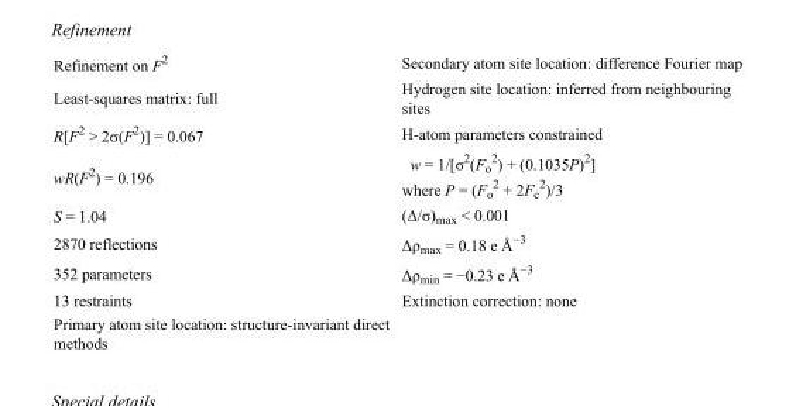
<table><tbody><tr><td>Refinement on F<sup>2</sup></td><td>Secondary atom site location: difference Fourier map</td></tr><tr><td>Least-squares matrix: full</td><td>Hydrogen site location: inferred from neighbouring sites</td></tr><tr><td>R[F<sup>2</sup> &gt; 2σ(F<sup>2</sup>)] = 0.067</td><td>H-atom parameters constrained</td></tr><tr><td>wR(F<sup>2</sup>) = 0.196</td><td>w = 1/[σ<sup>2</sup>(F<sub>o</sub> <sup>2</sup>) + (0.1035P)<sup>2</sup>] where P = (F<sub>o</sub> <sup>2</sup> + 2F<sub>c</sub> <sup>2</sup>)/3</td></tr><tr><td>S = 1.04</td><td>(Δ/σ)<sub>max</sub> &lt; 0.001</td></tr><tr><td>2870 reflections</td><td>Δρ<sub>max</sub> = 0.18 e Å<sup>−3</sup></td></tr><tr><td>352 parameters</td><td>Δρ<sub>min</sub> = −0.23 e Å<sup>−3</sup></td></tr><tr><td>13 restraints</td><td>Extinction correction: none</td></tr><tr><td>Primary atom site location: structure-invariant direct methods</td><td></td></tr></tbody></table>